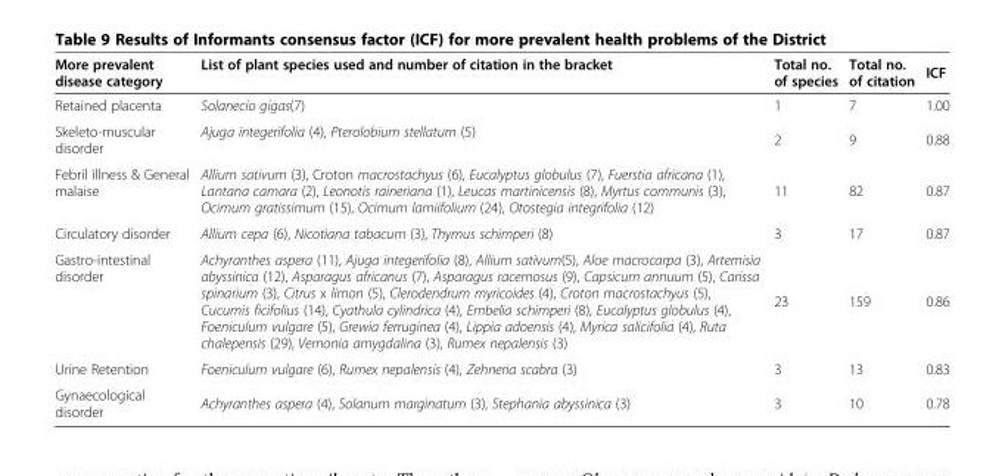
<table><thead><tr><td>More prevalent disease category</td><td>List of plant species used and number of citation in the bracket</td><td>Total no. of species</td><td>Total no. of citation</td><td>ICF</td></tr></thead><tbody><tr><td>Retained placenta</td><td>Solanecio gigas(7)</td><td>1</td><td>7</td><td>1.00</td></tr><tr><td>Skeleto-muscular disorder</td><td>Ajuga integerifolia (4), Pterolobium stellatum (5)</td><td>2</td><td>9</td><td>0.88</td></tr><tr><td>Febril illness &amp; General malaise</td><td>Allium sativum (3), Croton macrostachyus (6), Eucalyptus globulus (7), Fuerstia africana (1), Lantana camara (2), Leonotis raineriana (1), Leucas martinicensis (8), Myrtus communis (3), Ocimum gratissimum (15), Ocimum lamiifolium (24), Otostegia integrifolia (12)</td><td>11</td><td>82</td><td>0.87</td></tr><tr><td>Circulatory disorder</td><td>Allium cepa (6), Nicotiana tabacum (3), Thymus schimperi (8)</td><td>3</td><td>17</td><td>0.87</td></tr><tr><td>Gastro-intestinal disorder</td><td>Achyranthes aspera (11), Ajuga integerifolia (8), Allium sativum(5), Aloe macrocarpa (3), Artemisia abyssinica (12), Asparagus africanus (7), Asparagus racemosus (9), Capsicum annuum (5), Carissa spinarium (3), Citrus x limon (5), Clerodendrum myricoides (4), Croton macrostachyus (5), Cucumis ficifolius (14), Cyathula cylindrica (4), Embelia schimperi (8), Eucalyptus globulus (4), Foeniculum vulgare (5), Grewia ferruginea (4), Lippia adoensis (4), Myrica salicifolia (4), Ruta chalepensis (29), Vernonia amygdalina (3), Rumex nepalensis (3)</td><td>23</td><td>159</td><td>0.86</td></tr><tr><td>Urine Retention</td><td>Foeniculum vulgare (6), Rumex nepalensis (4), Zehneria scabra (3)</td><td>3</td><td>13</td><td>0.83</td></tr><tr><td>Gynaecological disorder</td><td>Achyranthes aspera (4), Solanum marginatum (3), Stephania abyssinica (3)</td><td>3</td><td>10</td><td>0.78</td></tr></tbody></table>